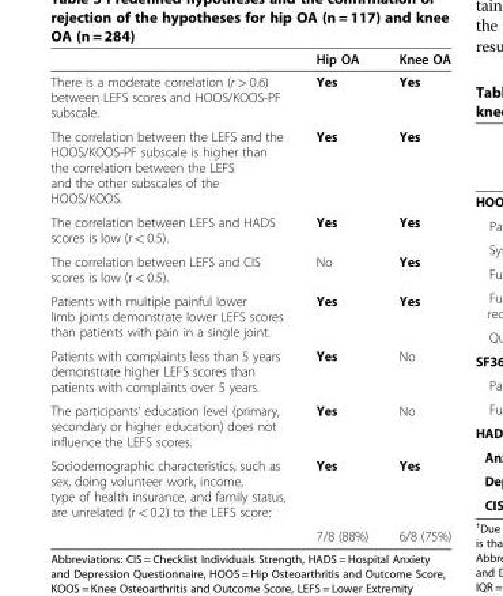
<table><thead><tr><td></td><td>Hip OA</td><td>Knee OA</td></tr></thead><tbody><tr><td>There is a moderate correlation (r &gt; 0.6) between LEFS scores and HOOS/KOOS-PF subscale.</td><td>Yes</td><td>Yes</td></tr><tr><td>The correlation between the LEFS and the HOOS/KOOS-PF subscale is higher than the correlation between the LEFS and the other subscales of the HOOS/KOOS.</td><td>Yes</td><td>Yes</td></tr><tr><td>The correlation between LEFS and HADS scores is low (r &lt; 0.5).</td><td>Yes</td><td>Yes</td></tr><tr><td>The correlation between LEFS and CIS scores is low (r &lt; 0.5).</td><td>No</td><td>Yes</td></tr><tr><td>Patients with multiple painful lower limb joints demonstrate lower LEFS scores than patients with pain in a single joint.</td><td>Yes</td><td>Yes</td></tr><tr><td>Patients with complaints less than 5 years demonstrate higher LEFS scores than patients with complaints over 5 years.</td><td>Yes</td><td>No</td></tr><tr><td>The participants’ education level (primary, secondary or higher education) does not influence the LEFS scores.</td><td>Yes</td><td>No</td></tr><tr><td rowspan="2">Sociodemographic characteristics, such as sex, doing volunteer work, income, type of health insurance, and family status, are unrelated (r &lt; 0.2) to the LEFS score:</td><td>Yes</td><td>Yes</td></tr><tr><td>7/8 (88%)</td><td>6/8 (75%)</td></tr></tbody></table>